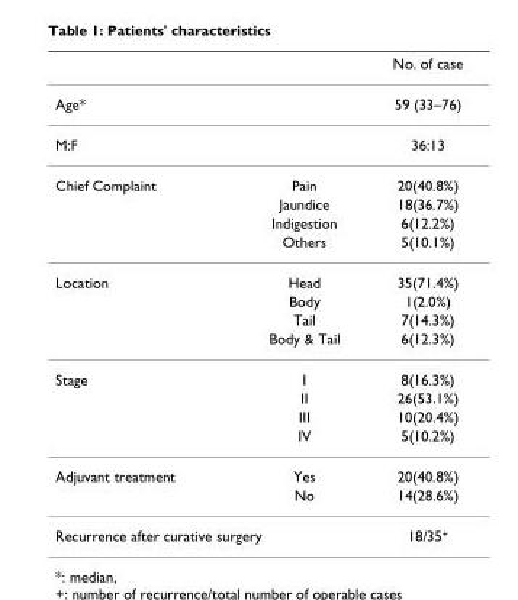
<table><thead><tr><td></td><td></td><td>No. of case</td></tr></thead><tbody><tr><td>Age*</td><td></td><td>59 (33–76)</td></tr><tr><td>M:F</td><td></td><td>36:13</td></tr><tr><td rowspan="4">Chief Complaint</td><td>Pain</td><td>20(40.8%)</td></tr><tr><td>Jaundice</td><td>18(36.7%)</td></tr><tr><td>Indigestion</td><td>6(12.2%)</td></tr><tr><td>Others</td><td>5(10.1%)</td></tr><tr><td rowspan="4">Location</td><td>Head</td><td>35(71.4%)</td></tr><tr><td>Body</td><td>1(2.0%)</td></tr><tr><td>Tail</td><td>7(14.3%)</td></tr><tr><td>Body &amp; Tail</td><td>6(12.3%)</td></tr><tr><td rowspan="4">Stage</td><td>I</td><td>8(16.3%)</td></tr><tr><td>II</td><td>26(53.1%)</td></tr><tr><td>III</td><td>10(20.4%)</td></tr><tr><td>IV</td><td>5(10.2%)</td></tr><tr><td rowspan="2">Adjuvant treatment</td><td>Yes</td><td>20(40.8%)</td></tr><tr><td>No</td><td>14(28.6%)</td></tr><tr><td colspan="2">Recurrence after curative surgery</td><td>18/35<sup>+</sup></td></tr></tbody></table>